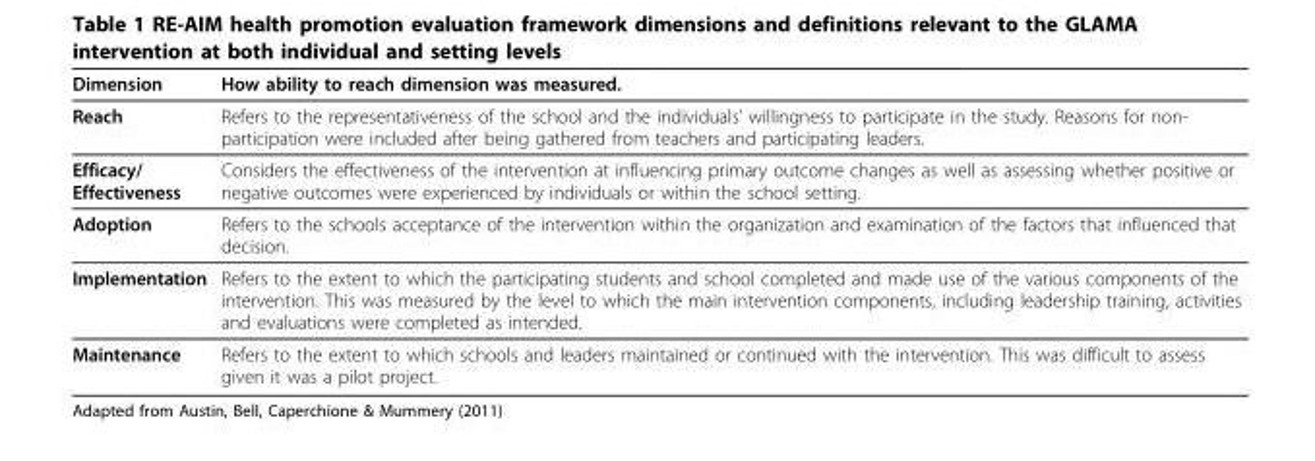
<table><thead><tr><td>Dimension</td><td>How ability to reach dimension was measured.</td></tr></thead><tbody><tr><td>Reach</td><td>Refers to the representativeness of the school and the individuals’ willingness to participate in the study. Reasons for non- participation were included after being gathered from teachers and participating leaders.</td></tr><tr><td>Efficacy/ Effectiveness</td><td>Considers the effectiveness of the intervention at influencing primary outcome changes as well as assessing whether positive or negative outcomes were experienced by individuals or within the school setting.</td></tr><tr><td>Adoption</td><td>Refers to the schools acceptance of the intervention within the organization and examination of the factors that influenced that decision.</td></tr><tr><td>Implementation</td><td>Refers to the extent to which the participating students and school completed and made use of the various components of the intervention. This was measured by the level to which the main intervention components, including leadership training, activities and evaluations were completed as intended.</td></tr><tr><td>Maintenance</td><td>Refers to the extent to which schools and leaders maintained or continued with the intervention. This was difficult to assess given it was a pilot project.</td></tr></tbody></table>